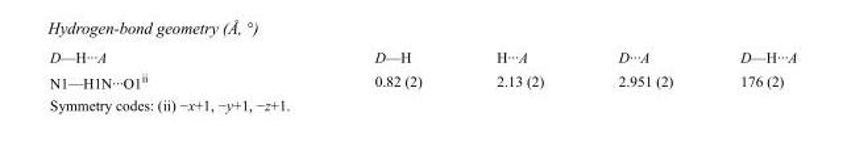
<table><tbody><tr><td>D—H···A</td><td>D—H</td><td>H···A</td><td>D···A</td><td>D—H···A</td></tr><tr><td>N1—H1N···O1<sup>ii</sup></td><td>0.82 (2)</td><td>2.13 (2)</td><td>2.951 (2)</td><td>176 (2)</td></tr></tbody></table>